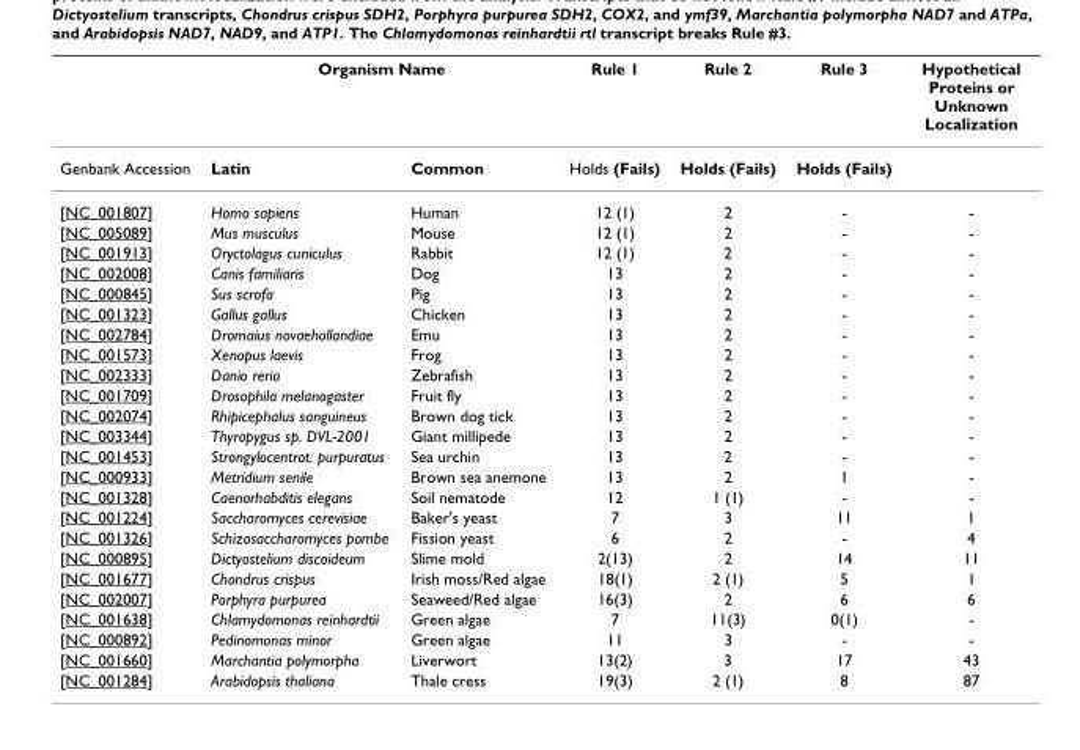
<table><thead><tr><td rowspan="2">Genbank Accession</td><td colspan="2">Organism Name</td><td rowspan="2">Rule 1 Holds (Fails)</td><td rowspan="2">Rule 2 Holds (Fails)</td><td rowspan="2">Rule 3 Holds (Fails)</td><td rowspan="2">Hypothetical Proteins or Unknown Localization</td></tr><tr><td>Latin</td><td>Common</td></tr></thead><tbody><tr><td>[NC_001807]</td><td>Homo sapiens</td><td>Human</td><td>12 (1)</td><td>2</td><td>-</td><td>-</td></tr><tr><td>[NC_005089]</td><td>Mus musculus</td><td>Mouse</td><td>12 (1)</td><td>2</td><td>-</td><td>-</td></tr><tr><td>[NC_001913]</td><td>Oryctolagus cuniculus</td><td>Rabbit</td><td>12 (1)</td><td>2</td><td>-</td><td>-</td></tr><tr><td>[NC_002008]</td><td>Canis familiaris</td><td>Dog</td><td>13</td><td>2</td><td>-</td><td>-</td></tr><tr><td>[NC_000845]</td><td>Sus scrofa</td><td>Pig</td><td>13</td><td>2</td><td>-</td><td>-</td></tr><tr><td>[NC_001323]</td><td>Gallus gallus</td><td>Chicken</td><td>13</td><td>2</td><td>-</td><td>-</td></tr><tr><td>[NC_002784]</td><td>Dromaius novaehollandiae</td><td>Emu</td><td>13</td><td>2</td><td>-</td><td>-</td></tr><tr><td>[NC_001573]</td><td>Xenopus laevis</td><td>Frog</td><td>13</td><td>2</td><td>-</td><td>-</td></tr><tr><td>[NC_002333]</td><td>Danio rerio</td><td>Zebrafish</td><td>13</td><td>2</td><td>-</td><td>-</td></tr><tr><td>[NC_001709]</td><td>Drosophila melanogaster</td><td>Fruit fly</td><td>13</td><td>2</td><td>-</td><td>-</td></tr><tr><td>[NC_002074]</td><td>Rhipicephalus sanguineus</td><td>Brown dog tick</td><td>13</td><td>2</td><td>-</td><td>-</td></tr><tr><td>[NC_003344]</td><td>Thyropygus sp. DVL-2001</td><td>Giant millipede</td><td>13</td><td>2</td><td>-</td><td>-</td></tr><tr><td>[NC_001453]</td><td>Strongylocentrot. purpuratus</td><td>Sea urchin</td><td>13</td><td>2</td><td>-</td><td>-</td></tr><tr><td>[NC_000933]</td><td>Metridium senile</td><td>Brown sea anemone</td><td>13</td><td>2</td><td>1</td><td>-</td></tr><tr><td>[NC_001328]</td><td>Caenorhabditis elegans</td><td>Soil nematode</td><td>12</td><td>1 (1)</td><td>-</td><td>-</td></tr><tr><td>[NC_001224]</td><td>Saccharomyces cerevisiae</td><td>Baker&#x27;s yeast</td><td>7</td><td>3</td><td>11</td><td>1</td></tr><tr><td>[NC_001326]</td><td>Schizosaccharomyces pombe</td><td>Fission yeast</td><td>6</td><td>2</td><td>-</td><td>4</td></tr><tr><td>[NC_000895]</td><td>Dictyostelium discoideum</td><td>Slime mold</td><td>2(13)</td><td>2</td><td>14</td><td>11</td></tr><tr><td>[NC_001677]</td><td>Chondrus crispus</td><td>Irish moss/Red algae</td><td>18(1)</td><td>2 (1)</td><td>5</td><td>1</td></tr><tr><td>[NC_002007]</td><td>Porphyra purpurea</td><td>Seaweed/Red algae</td><td>16(3)</td><td>2</td><td>6</td><td>6</td></tr><tr><td>[NC_001638]</td><td>Chlamydomonas reinhardtii</td><td>Green algae</td><td>7</td><td>11(3)</td><td>0(1)</td><td>-</td></tr><tr><td>[NC_000892]</td><td>Pedinomonas minor</td><td>Green algae</td><td>11</td><td>3</td><td>-</td><td>-</td></tr><tr><td>[NC_001660]</td><td>Marchantia polymorpha</td><td>Liverwort</td><td>13(2)</td><td>3</td><td>17</td><td>43</td></tr><tr><td>[NC_001284]</td><td>Arabidopsis thaliana</td><td>Thale cress</td><td>19(3)</td><td>2 (1)</td><td>8</td><td>87</td></tr></tbody></table>